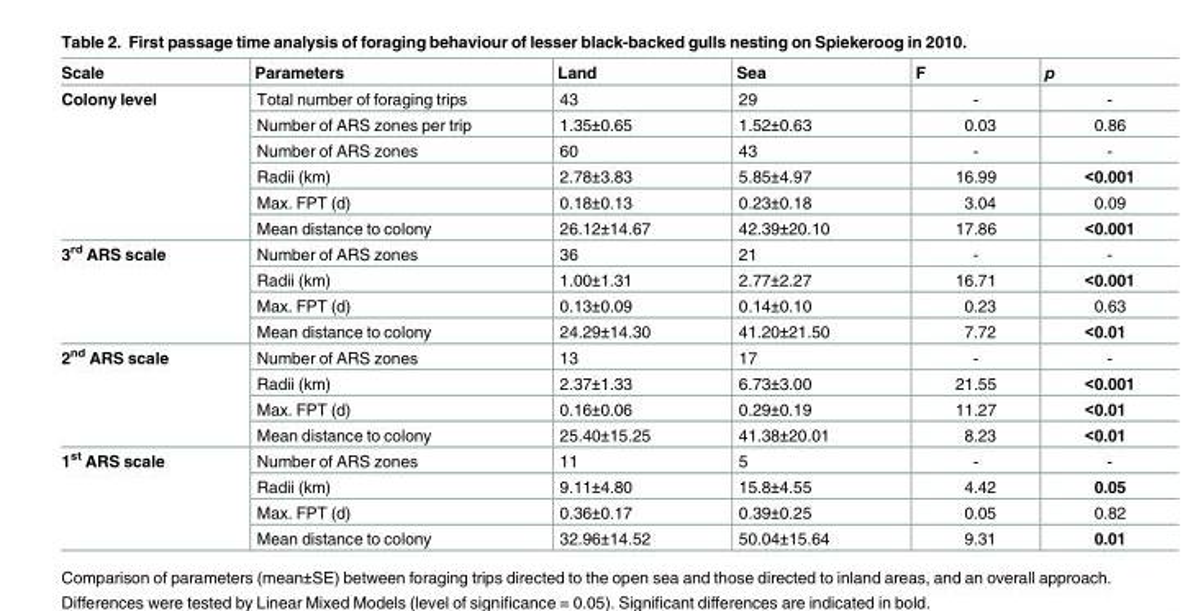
<table><thead><tr><td>Scale</td><td>Parameters</td><td>Land</td><td>Sea</td><td>F</td><td>p</td></tr></thead><tbody><tr><td rowspan="6">Colony level</td><td>Total number of foraging trips</td><td>43</td><td>29</td><td>-</td><td>-</td></tr><tr><td>Number of ARS zones per trip</td><td>1.35±0.65</td><td>1.52±0.63</td><td>0.03</td><td>0.86</td></tr><tr><td>Number of ARS zones</td><td>60</td><td>43</td><td>-</td><td>-</td></tr><tr><td>Radii (km)</td><td>2.78±3.83</td><td>5.85±4.97</td><td>16.99</td><td>&lt;0.001</td></tr><tr><td>Max. FPT (d)</td><td>0.18±0.13</td><td>0.23±0.18</td><td>3.04</td><td>0.09</td></tr><tr><td>Mean distance to colony</td><td>26.12±14.67</td><td>42.39±20.10</td><td>17.86</td><td>&lt;0.001</td></tr><tr><td rowspan="4">3<sup>rd</sup> ARS scale</td><td>Number of ARS zones</td><td>36</td><td>21</td><td>-</td><td>-</td></tr><tr><td>Radii (km)</td><td>1.00±1.31</td><td>2.77±2.27</td><td>16.71</td><td>&lt;0.001</td></tr><tr><td>Max. FPT (d)</td><td>0.13±0.09</td><td>0.14±0.10</td><td>0.23</td><td>0.63</td></tr><tr><td>Mean distance to colony</td><td>24.29±14.30</td><td>41.20±21.50</td><td>7.72</td><td>&lt;0.01</td></tr><tr><td rowspan="4">2<sup>nd</sup> ARS scale</td><td>Number of ARS zones</td><td>13</td><td>17</td><td>-</td><td>-</td></tr><tr><td>Radii (km)</td><td>2.37±1.33</td><td>6.73±3.00</td><td>21.55</td><td>&lt;0.001</td></tr><tr><td>Max. FPT (d)</td><td>0.16±0.06</td><td>0.29±0.19</td><td>11.27</td><td>&lt;0.01</td></tr><tr><td>Mean distance to colony</td><td>25.40±15.25</td><td>41.38±20.01</td><td>8.23</td><td>&lt;0.01</td></tr><tr><td rowspan="4">1<sup>st</sup> ARS scale</td><td>Number of ARS zones</td><td>11</td><td>5</td><td>-</td><td>-</td></tr><tr><td>Radii (km)</td><td>9.11±4.80</td><td>15.8±4.55</td><td>4.42</td><td>0.05</td></tr><tr><td>Max. FPT (d)</td><td>0.36±0.17</td><td>0.39±0.25</td><td>0.05</td><td>0.82</td></tr><tr><td>Mean distance to colony</td><td>32.96±14.52</td><td>50.04±15.64</td><td>9.31</td><td>0.01</td></tr></tbody></table>